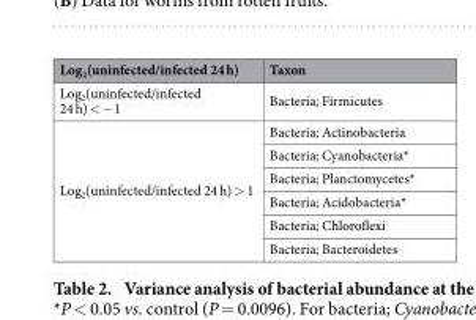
<table><thead><tr><td>Log<sub>2</sub>(uninfected/infected 24 h)</td><td>Taxon</td></tr></thead><tbody><tr><td>Log<sub>2</sub>(uninfected/infected 24 h) &lt; − 1</td><td>Bacteria; Firmicutes</td></tr><tr><td rowspan="6">Log<sub>2</sub>(uninfected/infected 24 h) &gt; 1</td><td>Bacteria; Actinobacteria</td></tr><tr><td>Bacteria; Cyanobacteria*</td></tr><tr><td>Bacteria; Planctomycetes*</td></tr><tr><td>Bacteria; Acidobacteria*</td></tr><tr><td>Bacteria; Chloroflexi</td></tr><tr><td>Bacteria; Bacteroidetes</td></tr></tbody></table>